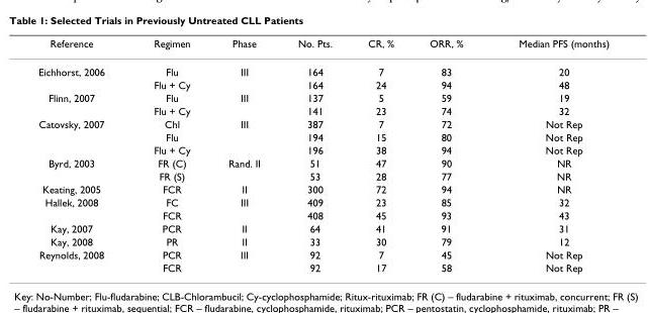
<table><thead><tr><td>Reference</td><td>Regimen</td><td>Phase</td><td>No. Pts.</td><td>CR, %</td><td>ORR, %</td><td>Median PFS (months)</td></tr></thead><tbody><tr><td rowspan="2">Eichhorst, 2006</td><td>Flu</td><td>III</td><td>164</td><td>7</td><td>83</td><td>20</td></tr><tr><td>Flu + Cy</td><td></td><td>164</td><td>24</td><td>94</td><td>48</td></tr><tr><td rowspan="2">Flinn, 2007</td><td>Flu</td><td>III</td><td>137</td><td>5</td><td>59</td><td>19</td></tr><tr><td>Flu + Cy</td><td></td><td>141</td><td>23</td><td>74</td><td>32</td></tr><tr><td rowspan="3">Catovsky, 2007</td><td>Chl</td><td>III</td><td>387</td><td>7</td><td>72</td><td>Not Rep</td></tr><tr><td>Flu</td><td></td><td>194</td><td>15</td><td>80</td><td>Not Rep</td></tr><tr><td>Flu + Cy</td><td></td><td>196</td><td>38</td><td>94</td><td>Not Rep</td></tr><tr><td rowspan="2">Byrd, 2003</td><td>FR (C)</td><td>Rand. II</td><td>51</td><td>47</td><td>90</td><td>NR</td></tr><tr><td>FR (S)</td><td></td><td>53</td><td>28</td><td>77</td><td>NR</td></tr><tr><td>Keating, 2005</td><td>FCR</td><td>II</td><td>300</td><td>72</td><td>94</td><td>NR</td></tr><tr><td rowspan="2">Hallek, 2008</td><td>FC</td><td>III</td><td>409</td><td>23</td><td>85</td><td>32</td></tr><tr><td>FCR</td><td></td><td>408</td><td>45</td><td>93</td><td>43</td></tr><tr><td>Kay, 2007</td><td>PCR</td><td>II</td><td>64</td><td>41</td><td>91</td><td>31</td></tr><tr><td>Kay, 2008</td><td>PR</td><td>II</td><td>33</td><td>30</td><td>79</td><td>12</td></tr><tr><td rowspan="2">Reynolds, 2008</td><td>PCR</td><td>III</td><td>92</td><td>7</td><td>45</td><td>Not Rep</td></tr><tr><td>FCR</td><td></td><td>92</td><td>17</td><td>58</td><td>Not Rep</td></tr></tbody></table>